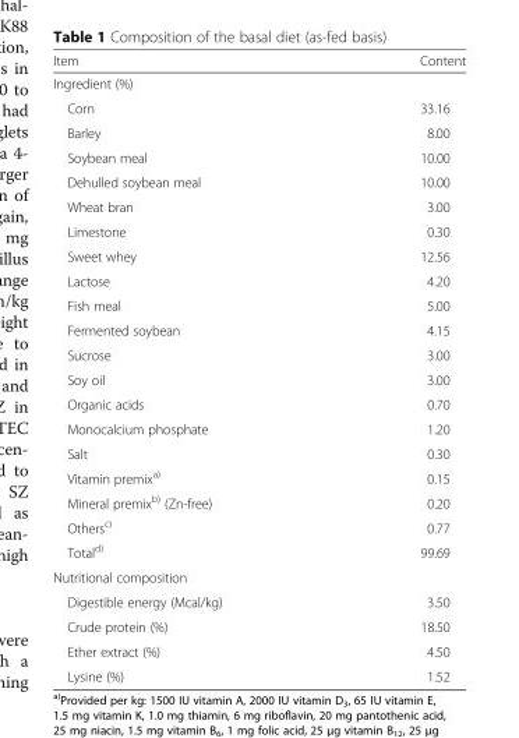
<table><thead><tr><td>Item</td><td>Content</td></tr></thead><tbody><tr><td colspan="2">Ingredient (%)</td></tr><tr><td>Corn</td><td>33.16</td></tr><tr><td>Barley</td><td>8.00</td></tr><tr><td>Soybean meal</td><td>10.00</td></tr><tr><td>Dehulled soybean meal</td><td>10.00</td></tr><tr><td>Wheat bran</td><td>3.00</td></tr><tr><td>Limestone</td><td>0.30</td></tr><tr><td>Sweet whey</td><td>12.56</td></tr><tr><td>Lactose</td><td>4.20</td></tr><tr><td>Fish meal</td><td>5.00</td></tr><tr><td>Fermented soybean</td><td>4.15</td></tr><tr><td>Sucrose</td><td>3.00</td></tr><tr><td>Soy oil</td><td>3.00</td></tr><tr><td>Organic acids</td><td>0.70</td></tr><tr><td>Monocalcium phosphate</td><td>1.20</td></tr><tr><td>Salt</td><td>0.30</td></tr><tr><td>Vitamin premix<sup>a)</sup></td><td>0.15</td></tr><tr><td>Mineral premix<sup>b)</sup> (Zn-free)</td><td>0.20</td></tr><tr><td>Others<sup>c)</sup></td><td>0.77</td></tr><tr><td>Total<sup>d)</sup></td><td>99.69</td></tr><tr><td colspan="2">Nutritional composition</td></tr><tr><td>Digestible energy (Mcal/kg)</td><td>3.50</td></tr><tr><td>Crude protein (%)</td><td>18.50</td></tr><tr><td>Ether extract (%)</td><td>4.50</td></tr><tr><td>Lysine (%)</td><td>1.52</td></tr></tbody></table>